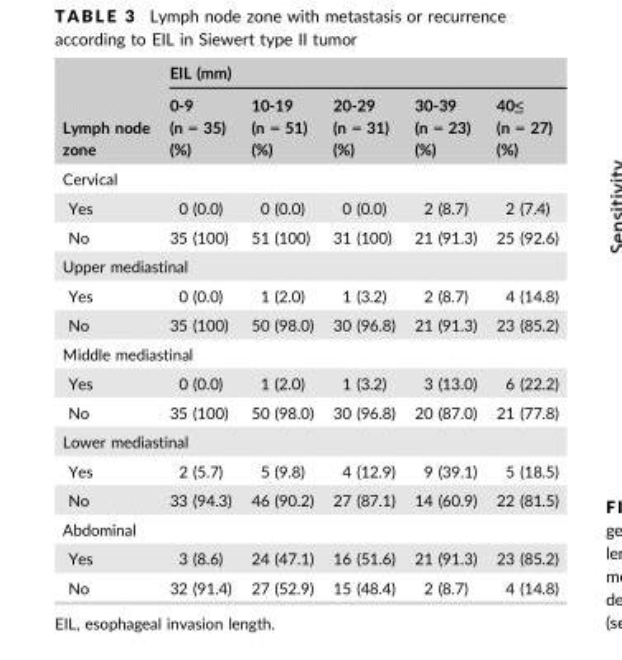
<table><thead><tr><td rowspan="2">Lymph node zone</td><td colspan="5">EIL (mm)</td></tr><tr><td>0-9 (n = 35) (%)</td><td>10-19 (n = 51) (%)</td><td>20-29 (n = 31) (%)</td><td>30-39 (n = 23) (%)</td><td>40≤ (n = 27) (%)</td></tr></thead><tbody><tr><td colspan="6">Cervical</td></tr><tr><td>Yes</td><td>0 (0.0)</td><td>0 (0.0)</td><td>0 (0.0)</td><td>2 (8.7)</td><td>2 (7.4)</td></tr><tr><td>No</td><td>35 (100)</td><td>51 (100)</td><td>31 (100)</td><td>21 (91.3)</td><td>25 (92.6)</td></tr><tr><td colspan="6">Upper mediastinal</td></tr><tr><td>Yes</td><td>0 (0.0)</td><td>1 (2.0)</td><td>1 (3.2)</td><td>2 (8.7)</td><td>4 (14.8)</td></tr><tr><td>No</td><td>35 (100)</td><td>50 (98.0)</td><td>30 (96.8)</td><td>21 (91.3)</td><td>23 (85.2)</td></tr><tr><td colspan="6">Middle mediastinal</td></tr><tr><td>Yes</td><td>0 (0.0)</td><td>1 (2.0)</td><td>1 (3.2)</td><td>3 (13.0)</td><td>6 (22.2)</td></tr><tr><td>No</td><td>35 (100)</td><td>50 (98.0)</td><td>30 (96.8)</td><td>20 (87.0)</td><td>21 (77.8)</td></tr><tr><td colspan="6">Lower mediastinal</td></tr><tr><td>Yes</td><td>2 (5.7)</td><td>5 (9.8)</td><td>4 (12.9)</td><td>9 (39.1)</td><td>5 (18.5)</td></tr><tr><td>No</td><td>33 (94.3)</td><td>46 (90.2)</td><td>27 (87.1)</td><td>14 (60.9)</td><td>22 (81.5)</td></tr><tr><td colspan="6">Abdominal</td></tr><tr><td>Yes</td><td>3 (8.6)</td><td>24 (47.1)</td><td>16 (51.6)</td><td>21 (91.3)</td><td>23 (85.2)</td></tr><tr><td>No</td><td>32 (91.4)</td><td>27 (52.9)</td><td>15 (48.4)</td><td>2 (8.7)</td><td>4 (14.8)</td></tr></tbody></table>